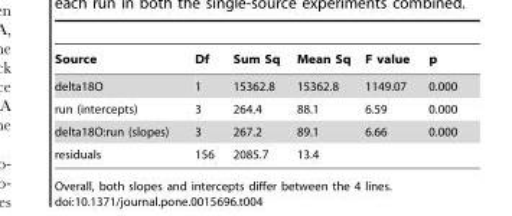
<table><thead><tr><td>Source</td><td>Df</td><td>Sum Sq</td><td>Mean Sq</td><td>F value</td><td>p</td></tr></thead><tbody><tr><td>delta18O</td><td>1</td><td>15362.8</td><td>15362.8</td><td>1149.07</td><td>0.000</td></tr><tr><td>run (intercepts)</td><td>3</td><td>264.4</td><td>88.1</td><td>6.59</td><td>0.000</td></tr><tr><td>delta18O:run (slopes)</td><td>3</td><td>267.2</td><td>89.1</td><td>6.66</td><td>0.000</td></tr><tr><td>residuals</td><td>156</td><td>2085.7</td><td>13.4</td><td></td><td></td></tr></tbody></table>